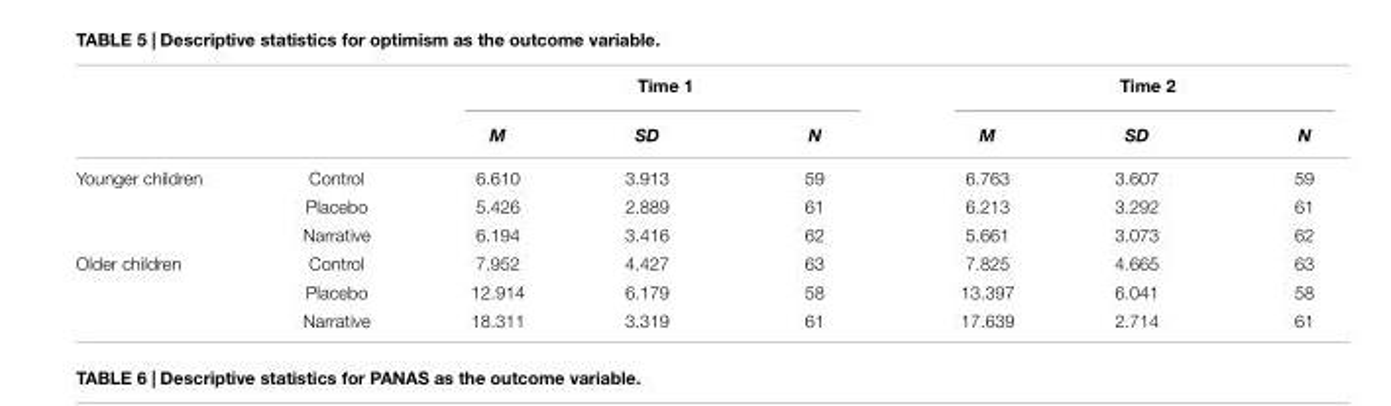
<table><thead><tr><td rowspan="2"></td><td rowspan="2"></td><td colspan="3">Time 1</td><td colspan="3">Time 2</td></tr><tr><td>M</td><td>SD</td><td>N</td><td>M</td><td>SD</td><td>N</td></tr></thead><tbody><tr><td rowspan="3">Younger children</td><td>Control</td><td>6.610</td><td>3.913</td><td>59</td><td>6.763</td><td>3.607</td><td>59</td></tr><tr><td>Placebo</td><td>5.426</td><td>2.889</td><td>61</td><td>6.213</td><td>3.292</td><td>61</td></tr><tr><td>Narrative</td><td>6.194</td><td>3.416</td><td>62</td><td>5.661</td><td>3.073</td><td>62</td></tr><tr><td rowspan="3">Older children</td><td>Control</td><td>7.952</td><td>4.427</td><td>63</td><td>7.825</td><td>4.665</td><td>63</td></tr><tr><td>Placebo</td><td>12.914</td><td>6.179</td><td>58</td><td>13.397</td><td>6.041</td><td>58</td></tr><tr><td>Narrative</td><td>18.311</td><td>3.319</td><td>61</td><td>17.639</td><td>2.714</td><td>61</td></tr></tbody></table>